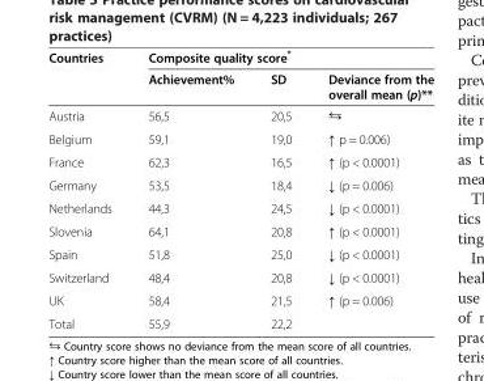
<table><thead><tr><td rowspan="2">Countries</td><td colspan="3">Composite quality score*</td></tr><tr><td>Achievement%</td><td>SD</td><td>Deviance from the overall mean (p)**</td></tr></thead><tbody><tr><td>Austria</td><td>56,5</td><td>20,5</td><td>⇆</td></tr><tr><td>Belgium</td><td>59,1</td><td>19,0</td><td>↑ p = 0.006)</td></tr><tr><td>France</td><td>62,3</td><td>16,5</td><td>↑ (p &lt; 0.0001)</td></tr><tr><td>Germany</td><td>53,5</td><td>18,4</td><td>↓ (p = 0.006)</td></tr><tr><td>Netherlands</td><td>44,3</td><td>24,5</td><td>↓ (p &lt; 0.0001)</td></tr><tr><td>Slovenia</td><td>64,1</td><td>20,8</td><td>↑ (p &lt; 0.0001)</td></tr><tr><td>Spain</td><td>51,8</td><td>25,0</td><td>↓ (p &lt; 0.0001)</td></tr><tr><td>Switzerland</td><td>48,4</td><td>20,8</td><td>↓ (p &lt; 0.0001)</td></tr><tr><td>UK</td><td>58,4</td><td>21,5</td><td>↑ (p = 0.006)</td></tr><tr><td>Total</td><td>55,9</td><td>22,2</td><td></td></tr></tbody></table>